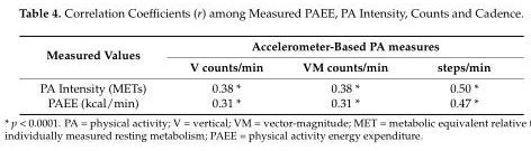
<table><thead><tr><td rowspan="2">Measured Values</td><td colspan="3">Accelerometer-Based PA measures</td></tr><tr><td>V counts/min</td><td>VM counts/min</td><td>steps/min</td></tr></thead><tbody><tr><td>PA Intensity (METs)</td><td>0.38 *</td><td>0.38 *</td><td>0.50 *</td></tr><tr><td>PAEE (kcal/min)</td><td>0.31 *</td><td>0.31 *</td><td>0.47 *</td></tr></tbody></table>